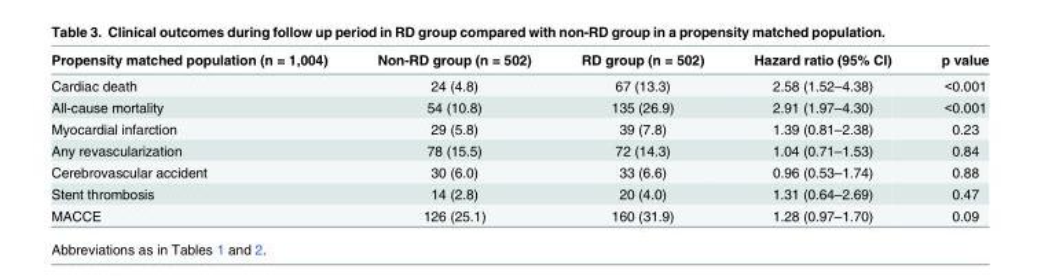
<table><thead><tr><td>Propensity matched population (n = 1,004)</td><td>Non-RD group (n = 502)</td><td>RD group (n = 502)</td><td>Hazard ratio (95% CI)</td><td>p value</td></tr></thead><tbody><tr><td>Cardiac death</td><td>24 (4.8)</td><td>67 (13.3)</td><td>2.58 (1.52–4.38)</td><td>&lt;0.001</td></tr><tr><td>All-cause mortality</td><td>54 (10.8)</td><td>135 (26.9)</td><td>2.91 (1.97–4.30)</td><td>&lt;0.001</td></tr><tr><td>Myocardial infarction</td><td>29 (5.8)</td><td>39 (7.8)</td><td>1.39 (0.81–2.38)</td><td>0.23</td></tr><tr><td>Any revascularization</td><td>78 (15.5)</td><td>72 (14.3)</td><td>1.04 (0.71–1.53)</td><td>0.84</td></tr><tr><td>Cerebrovascular accident</td><td>30 (6.0)</td><td>33 (6.6)</td><td>0.96 (0.53–1.74)</td><td>0.88</td></tr><tr><td>Stent thrombosis</td><td>14 (2.8)</td><td>20 (4.0)</td><td>1.31 (0.64–2.69)</td><td>0.47</td></tr><tr><td>MACCE</td><td>126 (25.1)</td><td>160 (31.9)</td><td>1.28 (0.97–1.70)</td><td>0.09</td></tr></tbody></table>